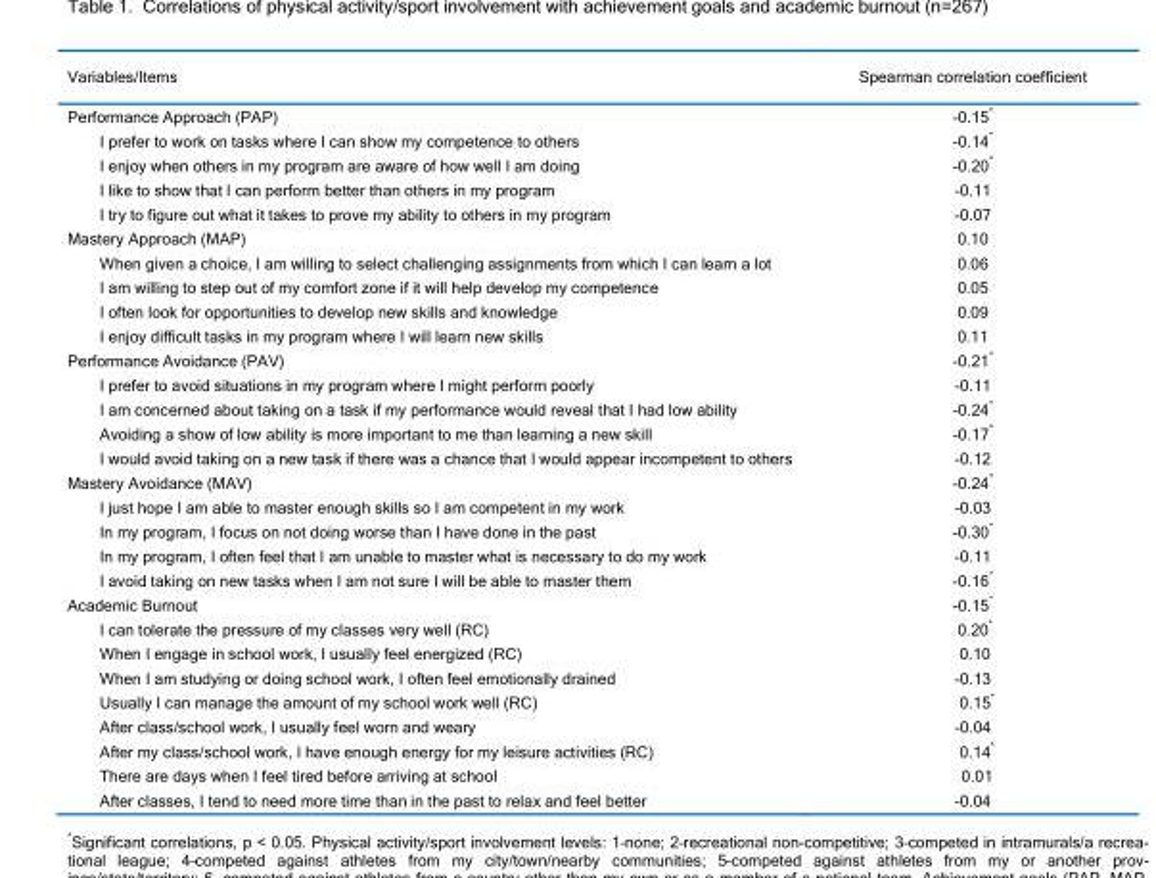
<table><thead><tr><td>Variables/Items</td><td>Spearman correlation coefficient</td></tr></thead><tbody><tr><td>Performance Approach (PAP)</td><td>-0.15*</td></tr><tr><td>I prefer to work on tasks where I can show my competence to others</td><td>-0.14*</td></tr><tr><td>I enjoy when others in my program are aware of how well I am doing</td><td>-0.20*</td></tr><tr><td>I like to show that I can perform better than others in my program</td><td>-0.11</td></tr><tr><td>I try to figure out what it takes to prove my ability to others in my program</td><td>-0.07</td></tr><tr><td>Mastery Approach (MAP)</td><td>0.10</td></tr><tr><td>When given a choice, I am willing to select challenging assignments from which I can learn a lot</td><td>0.06</td></tr><tr><td>I am willing to step out of my comfort zone if it will help develop my competence</td><td>0.05</td></tr><tr><td>I often look for opportunities to develop new skills and knowledge</td><td>0.09</td></tr><tr><td>I enjoy difficult tasks in my program where I will learn new skills</td><td>0.11</td></tr><tr><td>Performance Avoidance (PAV)</td><td>-0.21*</td></tr><tr><td>I prefer to avoid situations in my program where I might perform poorly</td><td>-0.11</td></tr><tr><td>I am concerned about taking on a task if my performance would reveal that I had low ability</td><td>-0.24*</td></tr><tr><td>Avoiding a show of low ability is more important to me than learning a new skill</td><td>-0.17*</td></tr><tr><td>I would avoid taking on a new task if there was a chance that I would appear incompetent to others</td><td>-0.12</td></tr><tr><td>Mastery Avoidance (MAV)</td><td>-0.24*</td></tr><tr><td>I just hope I am able to master enough skills so I am competent in my work</td><td>-0.03</td></tr><tr><td>In my program, I focus on not doing worse than I have done in the past</td><td>-0.30*</td></tr><tr><td>In my program, I often feel that I am unable to master what is necessary to do my work</td><td>-0.11</td></tr><tr><td>I avoid taking on new tasks when I am not sure I will be able to master them</td><td>-0.16*</td></tr><tr><td>Academic Burnout</td><td>-0.15*</td></tr><tr><td>I can tolerate the pressure of my classes very well (RC)</td><td>0.20*</td></tr><tr><td>When I engage in school work, I usually feel energized (RC)</td><td>0.10</td></tr><tr><td>When I am studying or doing school work, I often feel emotionally drained</td><td>-0.13</td></tr><tr><td>Usually I can manage the amount of my school work well (RC)</td><td>0.15*</td></tr><tr><td>After class/school work, I usually feel worn and weary</td><td>-0.04</td></tr><tr><td>After my class/school work, I have enough energy for my leisure activities (RC)</td><td>0.14*</td></tr><tr><td>There are days when I feel tired before arriving at school</td><td>0.01</td></tr><tr><td>After classes, I tend to need more time than in the past to relax and feel better</td><td>-0.04</td></tr></tbody></table>